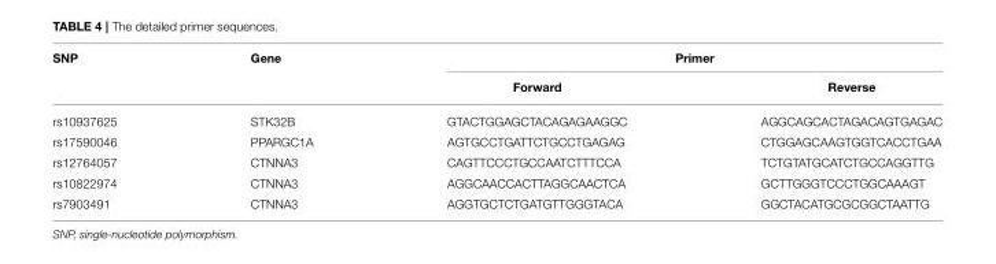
<table><thead><tr><td rowspan="2">SNP</td><td rowspan="2">Gene</td><td colspan="2">Primer</td></tr><tr><td>Forward</td><td>Reverse</td></tr></thead><tbody><tr><td>rs10937625</td><td>STK32B</td><td>GTACTGGAGCTACAGAGAAGGC</td><td>AGGCAGCACTAGACAGTGAGAC</td></tr><tr><td>rs17590046</td><td>PPARGC1A</td><td>AGTGCCTGATTCTGCCTGAGAG</td><td>CTGGAGCAAGTGGTCACCTGAA</td></tr><tr><td>rs12764057</td><td>CTNNA3</td><td>CAGTTCCCTGCCAATCTTTCCA</td><td>TCTGTATGCATCTGCCAGGTTG</td></tr><tr><td>rs10822974</td><td>CTNNA3</td><td>AGGCAACCACTTAGGCAACTCA</td><td>GCTTGGGTCCCTGGCAAAGT</td></tr><tr><td>rs7903491</td><td>CTNNA3</td><td>AGGTGCTCTGATGTTGGGTACA</td><td>GGCTACATGCGCGGCTAATTG</td></tr></tbody></table>